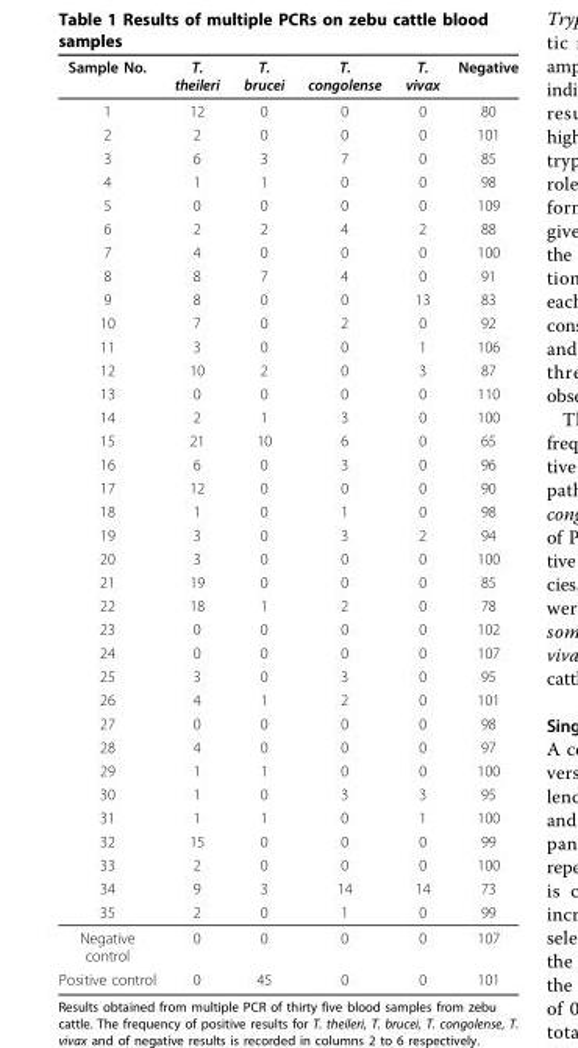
<table><thead><tr><td>Sample No.</td><td>T. theileri</td><td>T. brucei</td><td>T. congolense</td><td>T. vivax</td><td>Negative</td></tr></thead><tbody><tr><td>1</td><td>12</td><td>0</td><td>0</td><td>0</td><td>80</td></tr><tr><td>2</td><td>2</td><td>0</td><td>0</td><td>0</td><td>101</td></tr><tr><td>3</td><td>6</td><td>3</td><td>7</td><td>0</td><td>85</td></tr><tr><td>4</td><td>1</td><td>1</td><td>0</td><td>0</td><td>98</td></tr><tr><td>5</td><td>0</td><td>0</td><td>0</td><td>0</td><td>109</td></tr><tr><td>6</td><td>2</td><td>2</td><td>4</td><td>2</td><td>88</td></tr><tr><td>7</td><td>4</td><td>0</td><td>0</td><td>0</td><td>100</td></tr><tr><td>8</td><td>8</td><td>7</td><td>4</td><td>0</td><td>91</td></tr><tr><td>9</td><td>8</td><td>0</td><td>0</td><td>13</td><td>83</td></tr><tr><td>10</td><td>7</td><td>0</td><td>2</td><td>0</td><td>92</td></tr><tr><td>11</td><td>3</td><td>0</td><td>0</td><td>1</td><td>106</td></tr><tr><td>12</td><td>10</td><td>2</td><td>0</td><td>3</td><td>87</td></tr><tr><td>13</td><td>0</td><td>0</td><td>0</td><td>0</td><td>110</td></tr><tr><td>14</td><td>2</td><td>1</td><td>3</td><td>0</td><td>100</td></tr><tr><td>15</td><td>21</td><td>10</td><td>6</td><td>0</td><td>65</td></tr><tr><td>16</td><td>6</td><td>0</td><td>3</td><td>0</td><td>96</td></tr><tr><td>17</td><td>12</td><td>0</td><td>0</td><td>0</td><td>90</td></tr><tr><td>18</td><td>1</td><td>0</td><td>1</td><td>0</td><td>98</td></tr><tr><td>19</td><td>3</td><td>0</td><td>3</td><td>2</td><td>94</td></tr><tr><td>20</td><td>3</td><td>0</td><td>0</td><td>0</td><td>100</td></tr><tr><td>21</td><td>19</td><td>0</td><td>0</td><td>0</td><td>85</td></tr><tr><td>22</td><td>18</td><td>1</td><td>2</td><td>0</td><td>78</td></tr><tr><td>23</td><td>0</td><td>0</td><td>0</td><td>0</td><td>102</td></tr><tr><td>24</td><td>0</td><td>0</td><td>0</td><td>0</td><td>107</td></tr><tr><td>25</td><td>3</td><td>0</td><td>3</td><td>0</td><td>95</td></tr><tr><td>26</td><td>4</td><td>1</td><td>2</td><td>0</td><td>101</td></tr><tr><td>27</td><td>0</td><td>0</td><td>0</td><td>0</td><td>98</td></tr><tr><td>28</td><td>4</td><td>0</td><td>0</td><td>0</td><td>97</td></tr><tr><td>29</td><td>1</td><td>1</td><td>0</td><td>0</td><td>100</td></tr><tr><td>30</td><td>1</td><td>0</td><td>3</td><td>3</td><td>95</td></tr><tr><td>31</td><td>1</td><td>1</td><td>0</td><td>1</td><td>100</td></tr><tr><td>32</td><td>15</td><td>0</td><td>0</td><td>0</td><td>99</td></tr><tr><td>33</td><td>2</td><td>0</td><td>0</td><td>0</td><td>100</td></tr><tr><td>34</td><td>9</td><td>3</td><td>14</td><td>14</td><td>73</td></tr><tr><td>35</td><td>2</td><td>0</td><td>1</td><td>0</td><td>99</td></tr><tr><td>Negative control</td><td>0</td><td>0</td><td>0</td><td>0</td><td>107</td></tr><tr><td>Positive control</td><td>0</td><td>45</td><td>0</td><td>0</td><td>101</td></tr></tbody></table>